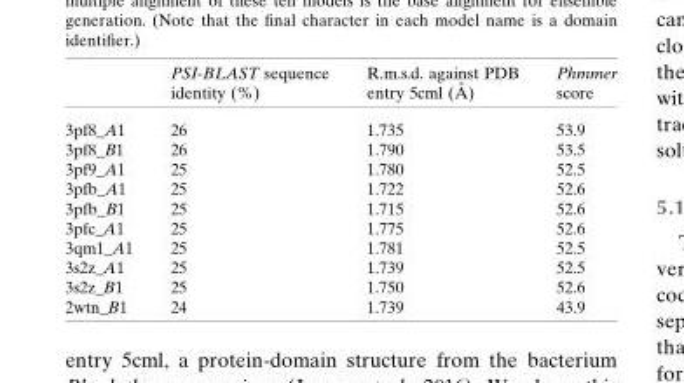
<table><thead><tr><td></td><td>PSI-BLAST sequence identity (%)</td><td>R.m.s.d. against PDB entry 5cml (A˚ )</td><td>Phmmer score</td></tr></thead><tbody><tr><td>3pf8_A1</td><td>26</td><td>1.735</td><td>53.9</td></tr><tr><td>3pf8_B1</td><td>26</td><td>1.790</td><td>53.5</td></tr><tr><td>3pf9_A1</td><td>25</td><td>1.780</td><td>52.5</td></tr><tr><td>3pfb_A1</td><td>25</td><td>1.722</td><td>52.6</td></tr><tr><td>3pfb_B1</td><td>25</td><td>1.715</td><td>52.6</td></tr><tr><td>3pfc_A1</td><td>25</td><td>1.775</td><td>52.6</td></tr><tr><td>3qm1_A1</td><td>25</td><td>1.781</td><td>52.5</td></tr><tr><td>3s2z_A1</td><td>25</td><td>1.739</td><td>52.5</td></tr><tr><td>3s2z_B1</td><td>25</td><td>1.750</td><td>52.6</td></tr><tr><td>2wtn_B1</td><td>24</td><td>1.739</td><td>43.9</td></tr></tbody></table>